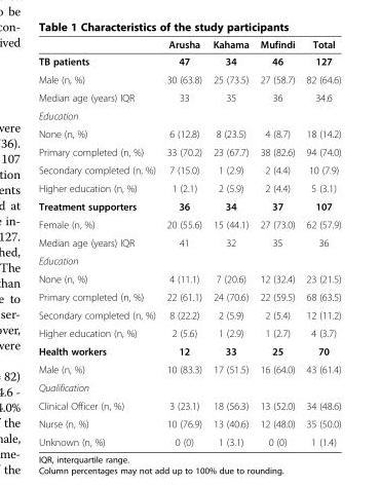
<table><thead><tr><td></td><td>Arusha</td><td>Kahama</td><td>Mufindi</td><td>Total</td></tr></thead><tbody><tr><td>TB patients</td><td>47</td><td>34</td><td>46</td><td>127</td></tr><tr><td>Male (n, %)</td><td>30 (63.8)</td><td>25 (73.5)</td><td>27 (58.7)</td><td>82 (64.6)</td></tr><tr><td>Median age (years) IQR</td><td>33</td><td>35</td><td>36</td><td>34.6</td></tr><tr><td colspan="5">Education</td></tr><tr><td>None (n, %)</td><td>6 (12.8)</td><td>8 (23.5)</td><td>4 (8.7)</td><td>18 (14.2)</td></tr><tr><td>Primary completed (n, %)</td><td>33 (70.2)</td><td>23 (67.7)</td><td>38 (82.6)</td><td>94 (74.0)</td></tr><tr><td>Secondary completed (n, %)</td><td>7 (15.0)</td><td>1 (2.9)</td><td>2 (4.4)</td><td>10 (7.9)</td></tr><tr><td>Higher education (n, %)</td><td>1 (2.1)</td><td>2 (5.9)</td><td>2 (4.4)</td><td>5 (3.1)</td></tr><tr><td>Treatment supporters</td><td>36</td><td>34</td><td>37</td><td>107</td></tr><tr><td>Female (n, %)</td><td>20 (55.6)</td><td>15 (44.1)</td><td>27 (73.0)</td><td>62 (57.9)</td></tr><tr><td>Median age (years) IQR</td><td>41</td><td>32</td><td>35</td><td>36</td></tr><tr><td colspan="5">Education</td></tr><tr><td>None (n, %)</td><td>4 (11.1)</td><td>7 (20.6)</td><td>12 (32.4)</td><td>23 (21.5)</td></tr><tr><td>Primary completed (n, %)</td><td>22 (61.1)</td><td>24 (70.6)</td><td>22 (59.5)</td><td>68 (63.5)</td></tr><tr><td>Secondary completed (n, %)</td><td>8 (22.2)</td><td>2 (5.9)</td><td>2 (5.4)</td><td>12 (11.2)</td></tr><tr><td>Higher education (n, %)</td><td>2 (5.6)</td><td>1 (2.9)</td><td>1 (2.7)</td><td>4 (3.7)</td></tr><tr><td>Health workers</td><td>12</td><td>33</td><td>25</td><td>70</td></tr><tr><td>Male (n, %)</td><td>10 (83.3)</td><td>17 (51.5)</td><td>16 (64.0)</td><td>43 (61.4)</td></tr><tr><td colspan="5">Qualification</td></tr><tr><td>Clinical Officer (n, %)</td><td>3 (23.1)</td><td>18 (56.3)</td><td>13 (52.0)</td><td>34 (48.6)</td></tr><tr><td>Nurse (n, %)</td><td>10 (76.9)</td><td>13 (40.6)</td><td>12 (48.0)</td><td>35 (50.0)</td></tr><tr><td>Unknown (n, %)</td><td>0 (0)</td><td>1 (3.1)</td><td>0 (0)</td><td>1 (1.4)</td></tr></tbody></table>